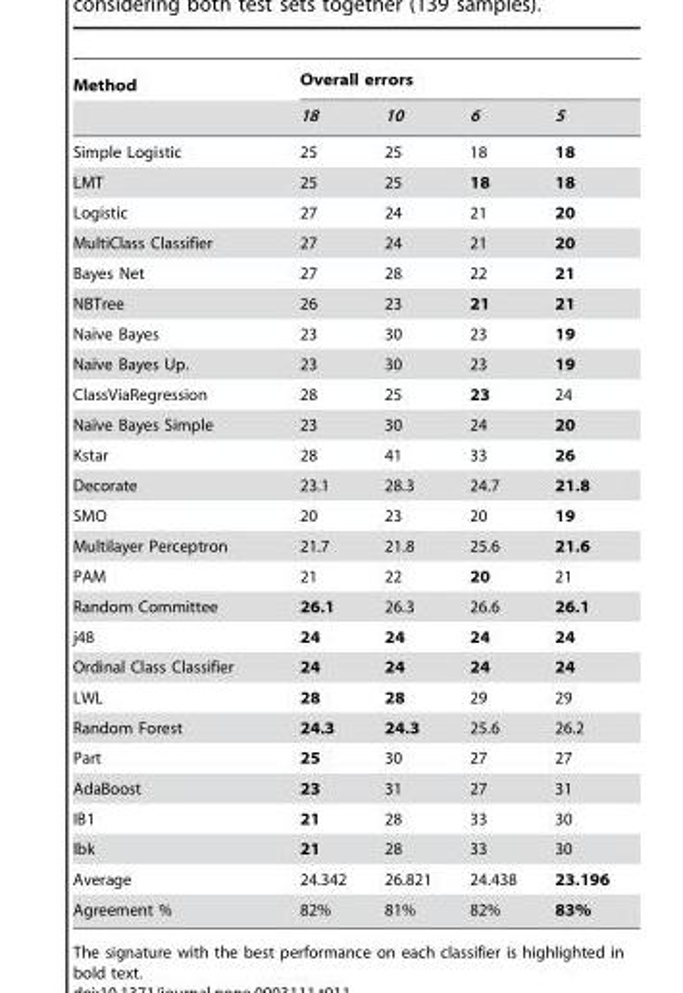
<table><thead><tr><td rowspan="2">Method</td><td colspan="4">Overall errors</td></tr><tr><td>18</td><td>10</td><td>6</td><td>5</td></tr></thead><tbody><tr><td>Simple Logistic</td><td>25</td><td>25</td><td>18</td><td>18</td></tr><tr><td>LMT</td><td>25</td><td>25</td><td>18</td><td>18</td></tr><tr><td>Logistic</td><td>27</td><td>24</td><td>21</td><td>20</td></tr><tr><td>MultiClass Classifier</td><td>27</td><td>24</td><td>21</td><td>20</td></tr><tr><td>Bayes Net</td><td>27</td><td>28</td><td>22</td><td>21</td></tr><tr><td>NBTree</td><td>26</td><td>23</td><td>21</td><td>21</td></tr><tr><td>Naı¨ve Bayes</td><td>23</td><td>30</td><td>23</td><td>19</td></tr><tr><td>Naı¨ve Bayes Up.</td><td>23</td><td>30</td><td>23</td><td>19</td></tr><tr><td>ClassViaRegression</td><td>28</td><td>25</td><td>23</td><td>24</td></tr><tr><td>Naı¨ve Bayes Simple</td><td>23</td><td>30</td><td>24</td><td>20</td></tr><tr><td>Kstar</td><td>28</td><td>41</td><td>33</td><td>26</td></tr><tr><td>Decorate</td><td>23.1</td><td>28.3</td><td>24.7</td><td>21.8</td></tr><tr><td>SMO</td><td>20</td><td>23</td><td>20</td><td>19</td></tr><tr><td>Multilayer Perceptron</td><td>21.7</td><td>21.8</td><td>25.6</td><td>21.6</td></tr><tr><td>PAM</td><td>21</td><td>22</td><td>20</td><td>21</td></tr><tr><td>Random Committee</td><td>26.1</td><td>26.3</td><td>26.6</td><td>26.1</td></tr><tr><td>j48</td><td>24</td><td>24</td><td>24</td><td>24</td></tr><tr><td>Ordinal Class Classifier</td><td>24</td><td>24</td><td>24</td><td>24</td></tr><tr><td>LWL</td><td>28</td><td>28</td><td>29</td><td>29</td></tr><tr><td>Random Forest</td><td>24.3</td><td>24.3</td><td>25.6</td><td>26.2</td></tr><tr><td>Part</td><td>25</td><td>30</td><td>27</td><td>27</td></tr><tr><td>AdaBoost</td><td>23</td><td>31</td><td>27</td><td>31</td></tr><tr><td>IB1</td><td>21</td><td>28</td><td>33</td><td>30</td></tr><tr><td>Ibk</td><td>21</td><td>28</td><td>33</td><td>30</td></tr><tr><td>Average</td><td>24.342</td><td>26.821</td><td>24.438</td><td>23.196</td></tr><tr><td>Agreement %</td><td>82%</td><td>81%</td><td>82%</td><td>83%</td></tr></tbody></table>